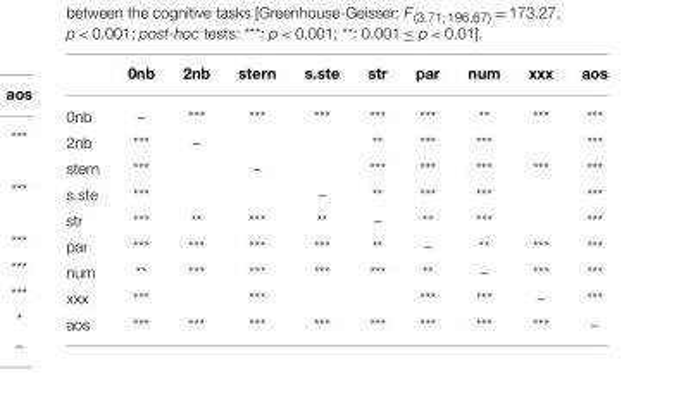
<table><thead><tr><td></td><td>0nb</td><td>2nb</td><td>stern</td><td>s.ste</td><td>str</td><td>par</td><td>num</td><td>xxx</td><td>aos</td></tr></thead><tbody><tr><td>0nb</td><td>–</td><td>***</td><td>***</td><td>***</td><td>***</td><td>***</td><td>**</td><td>***</td><td>***</td></tr><tr><td>2nb</td><td>***</td><td>–</td><td></td><td></td><td>**</td><td>***</td><td>***</td><td></td><td>***</td></tr><tr><td>stern</td><td>***</td><td></td><td>–</td><td></td><td>***</td><td>***</td><td>***</td><td>***</td><td>***</td></tr><tr><td>s.ste</td><td>***</td><td></td><td></td><td>–</td><td>**</td><td>***</td><td>***</td><td></td><td>***</td></tr><tr><td>str</td><td>***</td><td>**</td><td>***</td><td>**</td><td>–</td><td>**</td><td>***</td><td></td><td>***</td></tr><tr><td>par</td><td>***</td><td>***</td><td>***</td><td>***</td><td>**</td><td>–</td><td>**</td><td>***</td><td>***</td></tr><tr><td>num</td><td>**</td><td>***</td><td>***</td><td>***</td><td>***</td><td>**</td><td>–</td><td>***</td><td>***</td></tr><tr><td>xxx</td><td>***</td><td></td><td>***</td><td></td><td></td><td>***</td><td>***</td><td>–</td><td>***</td></tr><tr><td>aos</td><td>***</td><td>***</td><td>***</td><td>***</td><td>***</td><td>***</td><td>***</td><td>***</td><td>–</td></tr></tbody></table>